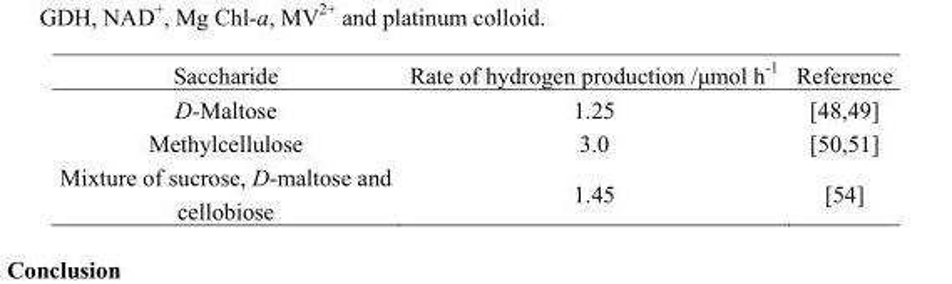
<table><thead><tr><td>Saccharide</td><td>Rate of hydrogen production /μmol h<sup>-1</sup></td><td>Reference</td></tr></thead><tbody><tr><td>D-Maltose</td><td>1.25</td><td>[48,49]</td></tr><tr><td>Methylcellulose</td><td>3.0</td><td>[50,51]</td></tr><tr><td>Mixture of sucrose, D-maltose and cellobiose</td><td>1.45</td><td>[54]</td></tr></tbody></table>